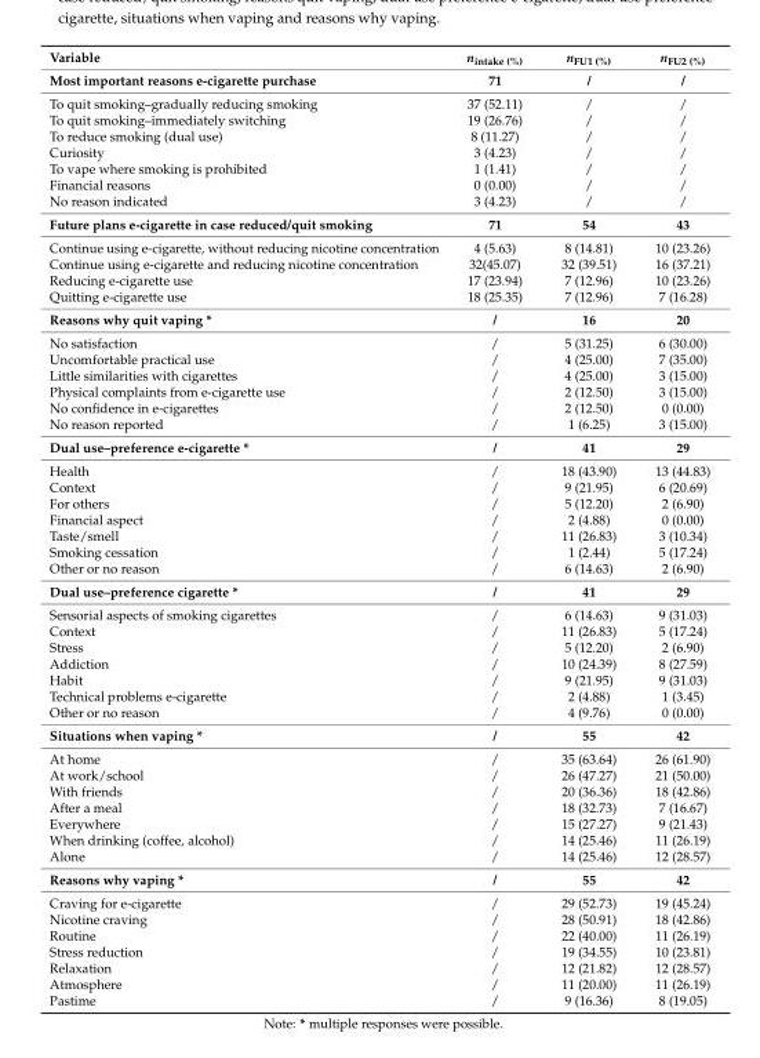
<table><thead><tr><td>Variable</td><td>n<sub>intake (%)</sub></td><td>n<sub>FU1 (%)</sub></td><td>n<sub>FU2 (%)</sub></td></tr></thead><tbody><tr><td>Most important reasons e-cigarette purchase</td><td>71</td><td>/</td><td>/</td></tr><tr><td>To quit smoking–gradually reducing smoking</td><td>37 (52.11)</td><td>/</td><td>/</td></tr><tr><td>To quit smoking–immediately switching</td><td>19 (26.76)</td><td>/</td><td>/</td></tr><tr><td>To reduce smoking (dual use)</td><td>8 (11.27)</td><td>/</td><td>/</td></tr><tr><td>Curiosity</td><td>3 (4.23)</td><td>/</td><td>/</td></tr><tr><td>To vape where smoking is prohibited</td><td>1 (1.41)</td><td>/</td><td>/</td></tr><tr><td>Financial reasons</td><td>0 (0.00)</td><td>/</td><td>/</td></tr><tr><td>No reason indicated</td><td>3 (4.23)</td><td>/</td><td>/</td></tr><tr><td>Future plans e-cigarette in case reduced/quit smoking</td><td>71</td><td>54</td><td>43</td></tr><tr><td>Continue using e-cigarette, without reducing nicotine concentration</td><td>4 (5.63)</td><td>8 (14.81)</td><td>10 (23.26)</td></tr><tr><td>Continue using e-cigarette and reducing nicotine concentration</td><td>32(45.07)</td><td>32 (39.51)</td><td>16 (37.21)</td></tr><tr><td>Reducing e-cigarette use</td><td>17 (23.94)</td><td>7 (12.96)</td><td>10 (23.26)</td></tr><tr><td>Quitting e-cigarette use</td><td>18 (25.35)</td><td>7 (12.96)</td><td>7 (16.28)</td></tr><tr><td>Reasons why quit vaping *</td><td>/</td><td>16</td><td>20</td></tr><tr><td>No satisfaction</td><td>/</td><td>5 (31.25)</td><td>6 (30.00)</td></tr><tr><td>Uncomfortable practical use</td><td>/</td><td>4 (25.00)</td><td>7 (35.00)</td></tr><tr><td>Little similarities with cigarettes</td><td>/</td><td>4 (25.00)</td><td>3 (15.00)</td></tr><tr><td>Physical complaints from e-cigarette use</td><td>/</td><td>2 (12.50)</td><td>3 (15.00)</td></tr><tr><td>No confidence in e-cigarettes</td><td>/</td><td>2 (12.50)</td><td>0 (0.00)</td></tr><tr><td>No reason reported</td><td>/</td><td>1 (6.25)</td><td>3 (15.00)</td></tr><tr><td>Dual use–preference e-cigarette *</td><td>/</td><td>41</td><td>29</td></tr><tr><td>Health</td><td>/</td><td>18 (43.90)</td><td>13 (44.83)</td></tr><tr><td>Context</td><td>/</td><td>9 (21.95)</td><td>6 (20.69)</td></tr><tr><td>For others</td><td>/</td><td>5 (12.20)</td><td>2 (6.90)</td></tr><tr><td>Financial aspect</td><td>/</td><td>2 (4.88)</td><td>0 (0.00)</td></tr><tr><td>Taste/smell</td><td>/</td><td>11 (26.83)</td><td>3 (10.34)</td></tr><tr><td>Smoking cessation</td><td>/</td><td>1 (2.44)</td><td>5 (17.24)</td></tr><tr><td>Other or no reason</td><td>/</td><td>6 (14.63)</td><td>2 (6.90)</td></tr><tr><td>Dual use–preference cigarette *</td><td>/</td><td>41</td><td>29</td></tr><tr><td>Sensorial aspects of smoking cigarettes</td><td>/</td><td>6 (14.63)</td><td>9 (31.03)</td></tr><tr><td>Context</td><td>/</td><td>11 (26.83)</td><td>5 (17.24)</td></tr><tr><td>Stress</td><td>/</td><td>5 (12.20)</td><td>2 (6.90)</td></tr><tr><td>Addiction</td><td>/</td><td>10 (24.39)</td><td>8 (27.59)</td></tr><tr><td>Habit</td><td>/</td><td>9 (21.95)</td><td>9 (31.03)</td></tr><tr><td>Technical problems e-cigarette</td><td>/</td><td>2 (4.88)</td><td>1 (3.45)</td></tr><tr><td>Other or no reason</td><td>/</td><td>4 (9.76)</td><td>0 (0.00)</td></tr><tr><td>Situations when vaping *</td><td>/</td><td>55</td><td>42</td></tr><tr><td>At home</td><td>/</td><td>35 (63.64)</td><td>26 (61.90)</td></tr><tr><td>At work/school</td><td>/</td><td>26 (47.27)</td><td>21 (50.00)</td></tr><tr><td>With friends</td><td>/</td><td>20 (36.36)</td><td>18 (42.86)</td></tr><tr><td>After a meal</td><td>/</td><td>18 (32.73)</td><td>7 (16.67)</td></tr><tr><td>Everywhere</td><td>/</td><td>15 (27.27)</td><td>9 (21.43)</td></tr><tr><td>When drinking (coffee, alcohol)</td><td>/</td><td>14 (25.46)</td><td>11 (26.19)</td></tr><tr><td>Alone</td><td>/</td><td>14 (25.46)</td><td>12 (28.57)</td></tr><tr><td>Reasons why vaping *</td><td>/</td><td>55</td><td>42</td></tr><tr><td>Craving for e-cigarette</td><td>/</td><td>29 (52.73)</td><td>19 (45.24)</td></tr><tr><td>Nicotine craving</td><td>/</td><td>28 (50.91)</td><td>18 (42.86)</td></tr><tr><td>Routine</td><td>/</td><td>22 (40.00)</td><td>11 (26.19)</td></tr><tr><td>Stress reduction</td><td>/</td><td>19 (34.55)</td><td>10 (23.81)</td></tr><tr><td>Relaxation</td><td>/</td><td>12 (21.82)</td><td>12 (28.57)</td></tr><tr><td>Atmosphere</td><td>/</td><td>11 (20.00)</td><td>11 (26.19)</td></tr><tr><td>Pastime</td><td>/</td><td>9 (16.36)</td><td>8 (19.05)</td></tr></tbody></table>